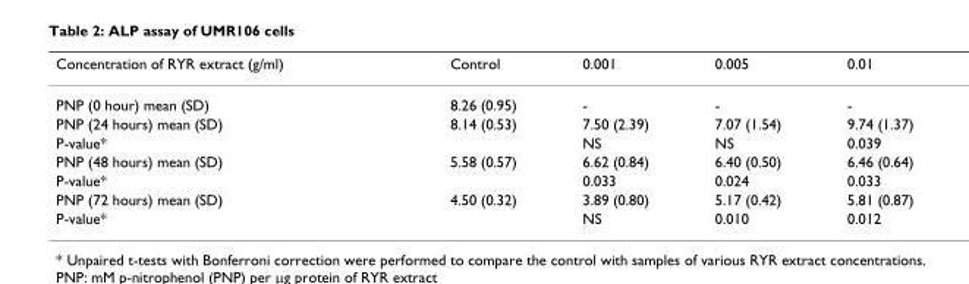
<table><thead><tr><td>Concentration of RYR extract (g/ml)</td><td>Control</td><td>0.001</td><td>0.005</td><td>0.01</td></tr></thead><tbody><tr><td>PNP (0 hour) mean (SD)</td><td>8.26 (0.95)</td><td>-</td><td>-</td><td>-</td></tr><tr><td>PNP (24 hours) mean (SD)</td><td>8.14 (0.53)</td><td>7.50 (2.39)</td><td>7.07 (1.54)</td><td>9.74 (1.37)</td></tr><tr><td>P-value*</td><td></td><td>NS</td><td>NS</td><td>0.039</td></tr><tr><td>PNP (48 hours) mean (SD)</td><td>5.58 (0.57)</td><td>6.62 (0.84)</td><td>6.40 (0.50)</td><td>6.46 (0.64)</td></tr><tr><td>P-value*</td><td></td><td>0.033</td><td>0.024</td><td>0.033</td></tr><tr><td>PNP (72 hours) mean (SD)</td><td>4.50 (0.32)</td><td>3.89 (0.80)</td><td>5.17 (0.42)</td><td>5.81 (0.87)</td></tr><tr><td>P-value*</td><td></td><td>NS</td><td>0.010</td><td>0.012</td></tr></tbody></table>